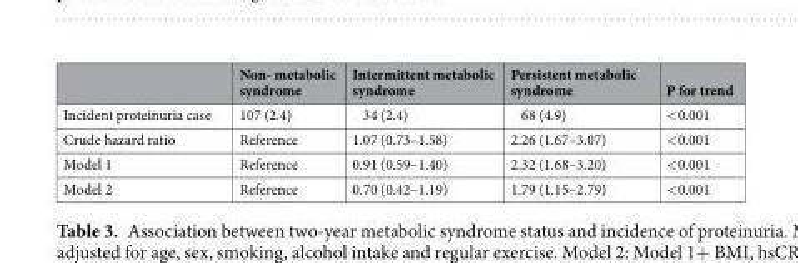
<table><thead><tr><td></td><td>Non- metabolic syndrome</td><td>Intermittent metabolic syndrome</td><td>Persistent metabolic syndrome</td><td>P for trend</td></tr></thead><tbody><tr><td>Incident proteinuria case</td><td>107 (2.4)</td><td>34 (2.4)</td><td>68 (4.9)</td><td>&lt;0.001</td></tr><tr><td>Crude hazard ratio</td><td>Reference</td><td>1.07 (0.73–1.58)</td><td>2.26 (1.67–3.07)</td><td>&lt;0.001</td></tr><tr><td>Model 1</td><td>Reference</td><td>0.91 (0.59–1.40)</td><td>2.32 (1.68–3.20)</td><td>&lt;0.001</td></tr><tr><td>Model 2</td><td>Reference</td><td>0.70 (0.42–1.19)</td><td>1.79 (1.15–2.79)</td><td>&lt;0.001</td></tr></tbody></table>